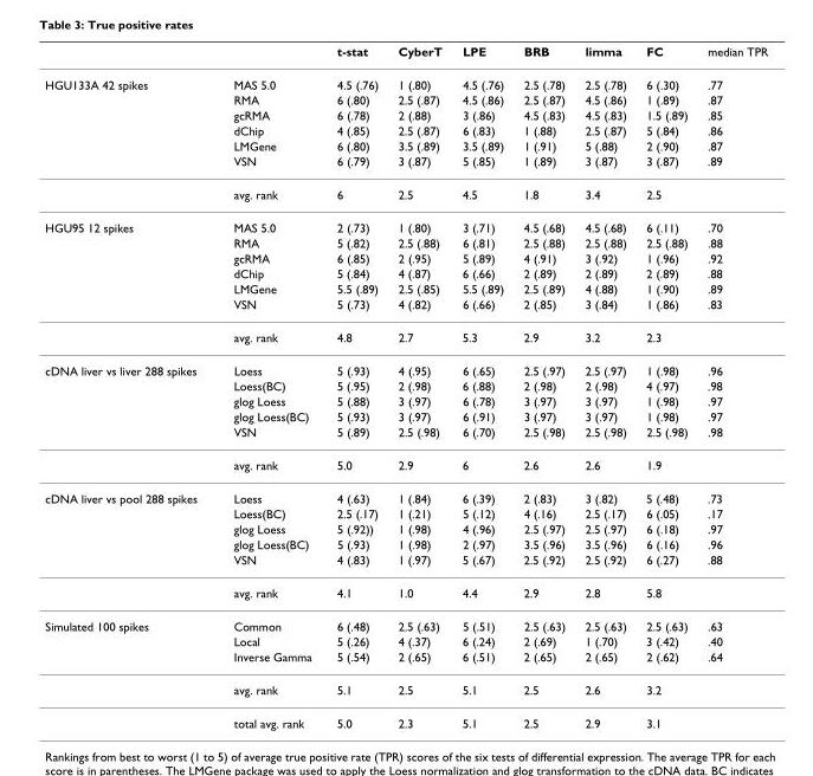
<table><thead><tr><td></td><td></td><td>t-stat</td><td>CyberT</td><td>LPE</td><td>BRB</td><td>limma</td><td>FC</td><td>median TPR</td></tr></thead><tbody><tr><td rowspan="7">HGU133A 42 spikes</td><td>MAS 5.0</td><td>4.5 (.76)</td><td>1 (.80)</td><td>4.5 (.76)</td><td>2.5 (.78)</td><td>2.5 (.78)</td><td>6 (.30)</td><td>.77</td></tr><tr><td>RMA</td><td>6 (.80)</td><td>2.5 (.87)</td><td>4.5 (.86)</td><td>2.5 (.87)</td><td>4.5 (.86)</td><td>1 (.89)</td><td>.87</td></tr><tr><td>gcRMA</td><td>6 (.78)</td><td>2 (.88)</td><td>3 (.86)</td><td>4.5 (.83)</td><td>4.5 (.83)</td><td>1.5 (.89)</td><td>.85</td></tr><tr><td>dChip</td><td>4 (.85)</td><td>2.5 (.87)</td><td>6 (.83)</td><td>1 (.88)</td><td>2.5 (.87)</td><td>5 (.84)</td><td>.86</td></tr><tr><td>LMGene</td><td>6 (.80)</td><td>3.5 (.89)</td><td>3.5 (.89)</td><td>1 (.91)</td><td>5 (.88)</td><td>2 (.90)</td><td>.87</td></tr><tr><td>VSN</td><td>6 (.79)</td><td>3 (.87)</td><td>5 (.85)</td><td>1 (.89)</td><td>3 (.87)</td><td>3 (.87)</td><td>.89</td></tr><tr><td>avg. rank</td><td>6</td><td>2.5</td><td>4.5</td><td>1.8</td><td>3.4</td><td>2.5</td><td></td></tr><tr><td rowspan="7">HGU95 12 spikes</td><td>MAS 5.0</td><td>2 (.73)</td><td>1 (.80)</td><td>3 (.71)</td><td>4.5 (.68)</td><td>4.5 (.68)</td><td>6 (.11)</td><td>.70</td></tr><tr><td>RMA</td><td>5 (.82)</td><td>2.5 (.88)</td><td>6 (.81)</td><td>2.5 (.88)</td><td>2.5 (.88)</td><td>2.5 (.88)</td><td>.88</td></tr><tr><td>gcRMA</td><td>6 (.85)</td><td>2 (.95)</td><td>5 (.89)</td><td>4 (.91)</td><td>3 (.92)</td><td>1 (.96)</td><td>.92</td></tr><tr><td>dChip</td><td>5 (.84)</td><td>4 (.87)</td><td>6 (.66)</td><td>2 (.89)</td><td>2 (.89)</td><td>2 (.89)</td><td>.88</td></tr><tr><td>LMGene</td><td>5.5 (.89)</td><td>2.5 (.85)</td><td>5.5 (.89)</td><td>2.5 (.89)</td><td>4 (.88)</td><td>1 (.90)</td><td>.89</td></tr><tr><td>VSN</td><td>5 (.73)</td><td>4 (.82)</td><td>6 (.66)</td><td>2 (.85)</td><td>3 (.84)</td><td>1 (.86)</td><td>.83</td></tr><tr><td>avg. rank</td><td>4.8</td><td>2.7</td><td>5.3</td><td>2.9</td><td>3.2</td><td>2.3</td><td></td></tr><tr><td rowspan="6">cDNA liver vs liver 288 spikes</td><td>Loess</td><td>5 (.93)</td><td>4 (.95)</td><td>6 (.65)</td><td>2.5 (.97)</td><td>2.5 (.97)</td><td>1 (.98)</td><td>.96</td></tr><tr><td>Loess(BC)</td><td>5 (.95)</td><td>2 (.98)</td><td>6 (.88)</td><td>2 (.98)</td><td>2 (.98)</td><td>4 (.97)</td><td>.98</td></tr><tr><td>glog Loess</td><td>5 (.88)</td><td>3 (.97)</td><td>6 (.78)</td><td>3 (.97)</td><td>3 (.97)</td><td>1 (.98)</td><td>.97</td></tr><tr><td>glog Loess(BC)</td><td>5 (.93)</td><td>3 (.97)</td><td>6 (.91)</td><td>3 (.97)</td><td>3 (.97)</td><td>1 (.98)</td><td>.97</td></tr><tr><td>VSN</td><td>5 (.89)</td><td>2.5 (.98)</td><td>6 (.70)</td><td>2.5 (.98)</td><td>2.5 (.98)</td><td>2.5 (.98)</td><td>.98</td></tr><tr><td>avg. rank</td><td>5.0</td><td>2.9</td><td>6</td><td>2.6</td><td>2.6</td><td>1.9</td><td></td></tr><tr><td rowspan="6">cDNA liver vs pool 288 spikes</td><td>Loess</td><td>4 (.63)</td><td>1 (.84)</td><td>6 (.39)</td><td>2 (.83)</td><td>3 (.82)</td><td>5 (.48)</td><td>.73</td></tr><tr><td>Loess(BC)</td><td>2.5 (.17)</td><td>1 (.21)</td><td>5 (.12)</td><td>4 (.16)</td><td>2.5 (.17)</td><td>6 (.05)</td><td>.17</td></tr><tr><td>glog Loess</td><td>5 (.92))</td><td>1 (.98)</td><td>4 (.96)</td><td>2.5 (.97)</td><td>2.5 (.97)</td><td>6 (.18)</td><td>.97</td></tr><tr><td>glog Loess(BC)</td><td>5 (.93)</td><td>1 (.98)</td><td>2 (.97)</td><td>3.5 (.96)</td><td>3.5 (.96)</td><td>6 (.16)</td><td>.96</td></tr><tr><td>VSN</td><td>4 (.83)</td><td>1 (.97)</td><td>5 (.67)</td><td>2.5 (.92)</td><td>2.5 (.92)</td><td>6 (.27)</td><td>.88</td></tr><tr><td>avg. rank</td><td>4.1</td><td>1.0</td><td>4.4</td><td>2.9</td><td>2.8</td><td>5.8</td><td></td></tr><tr><td rowspan="5">Simulated 100 spikes</td><td>Common</td><td>6 (.48)</td><td>2.5 (.63)</td><td>5 (.51)</td><td>2.5 (.63)</td><td>2.5 (.63)</td><td>2.5 (.63)</td><td>.63</td></tr><tr><td>Local</td><td>5 (.26)</td><td>4 (.37)</td><td>6 (.24)</td><td>2 (.69)</td><td>1 (.70)</td><td>3 (.42)</td><td>.40</td></tr><tr><td>Inverse Gamma</td><td>5 (.54)</td><td>2 (.65)</td><td>6 (.51)</td><td>2 (.65)</td><td>2 (.65)</td><td>2 (.62)</td><td>.64</td></tr><tr><td>avg. rank</td><td>5.1</td><td>2.5</td><td>5.1</td><td>2.5</td><td>2.6</td><td>3.2</td><td></td></tr><tr><td>total avg. rank</td><td>5.0</td><td>2.3</td><td>5.1</td><td>2.5</td><td>2.9</td><td>3.1</td><td></td></tr></tbody></table>